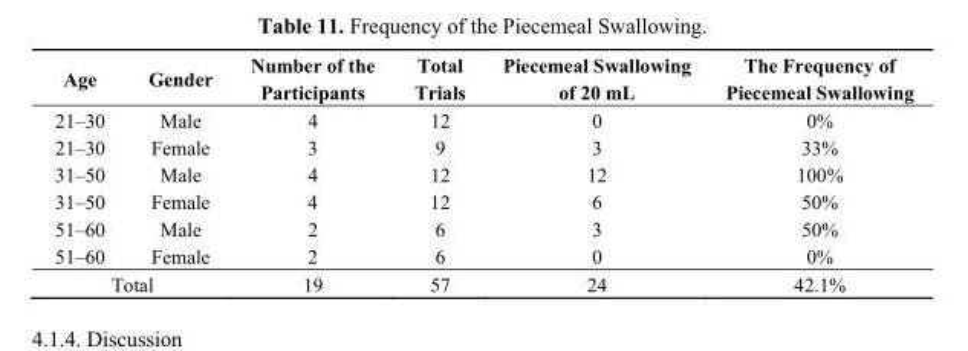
<table><thead><tr><td>Age</td><td>Gender</td><td>Number of the Participants</td><td>Total Trials</td><td>Piecemeal Swallowing of 20 mL</td><td>The Frequency of Piecemeal Swallowing</td></tr></thead><tbody><tr><td>21–30</td><td>Male</td><td>4</td><td>12</td><td>0</td><td>0%</td></tr><tr><td>21–30</td><td>Female</td><td>3</td><td>9</td><td>3</td><td>33%</td></tr><tr><td>31–50</td><td>Male</td><td>4</td><td>12</td><td>12</td><td>100%</td></tr><tr><td>31–50</td><td>Female</td><td>4</td><td>12</td><td>6</td><td>50%</td></tr><tr><td>51–60</td><td>Male</td><td>2</td><td>6</td><td>3</td><td>50%</td></tr><tr><td>51–60</td><td>Female</td><td>2</td><td>6</td><td>0</td><td>0%</td></tr><tr><td colspan="2">Total</td><td>19</td><td>57</td><td>24</td><td>42.1%</td></tr></tbody></table>